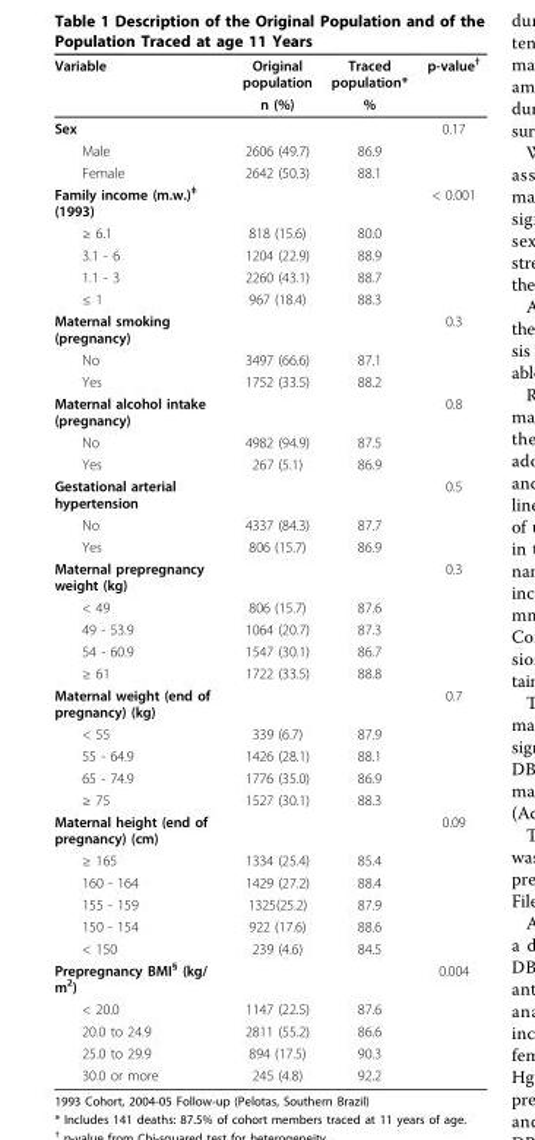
<table><thead><tr><td rowspan="2">Variable</td><td rowspan="2">Original population n (%)</td><td rowspan="2">Traced population* %</td><td rowspan="2">p-value<sup>†</sup></td></tr><tr></tr></thead><tbody><tr><td>Sex</td><td></td><td></td><td>0.17</td></tr><tr><td>Male</td><td>2606 (49.7)</td><td>86.9</td><td></td></tr><tr><td>Female</td><td>2642 (50.3)</td><td>88.1</td><td></td></tr><tr><td>Family income (m.w.)<sup>‡</sup> (1993)</td><td></td><td></td><td>&lt; 0.001</td></tr><tr><td>≥ 6.1</td><td>818 (15.6)</td><td>80.0</td><td></td></tr><tr><td>3.1 - 6</td><td>1204 (22.9)</td><td>88.9</td><td></td></tr><tr><td>1.1 - 3</td><td>2260 (43.1)</td><td>88.7</td><td></td></tr><tr><td>≤ 1</td><td>967 (18.4)</td><td>88.3</td><td></td></tr><tr><td>Maternal smoking (pregnancy)</td><td></td><td></td><td>0.3</td></tr><tr><td>No</td><td>3497 (66.6)</td><td>87.1</td><td></td></tr><tr><td>Yes</td><td>1752 (33.5)</td><td>88.2</td><td></td></tr><tr><td>Maternal alcohol intake (pregnancy)</td><td></td><td></td><td>0.8</td></tr><tr><td>No</td><td>4982 (94.9)</td><td>87.5</td><td></td></tr><tr><td>Yes</td><td>267 (5.1)</td><td>86.9</td><td></td></tr><tr><td>Gestational arterial hypertension</td><td></td><td></td><td>0.5</td></tr><tr><td>No</td><td>4337 (84.3)</td><td>87.7</td><td></td></tr><tr><td>Yes</td><td>806 (15.7)</td><td>86.9</td><td></td></tr><tr><td>Maternal prepregnancy weight (kg)</td><td></td><td></td><td>0.3</td></tr><tr><td>&lt; 49</td><td>806 (15.7)</td><td>87.6</td><td></td></tr><tr><td>49 - 53.9</td><td>1064 (20.7)</td><td>87.3</td><td></td></tr><tr><td>54 - 60.9</td><td>1547 (30.1)</td><td>86.7</td><td></td></tr><tr><td>≥ 61</td><td>1722 (33.5)</td><td>88.8</td><td></td></tr><tr><td>Maternal weight (end of pregnancy) (kg)</td><td></td><td></td><td>0.7</td></tr><tr><td>&lt; 55</td><td>339 (6.7)</td><td>87.9</td><td></td></tr><tr><td>55 - 64.9</td><td>1426 (28.1)</td><td>88.1</td><td></td></tr><tr><td>65 - 74.9</td><td>1776 (35.0)</td><td>86.9</td><td></td></tr><tr><td>≥ 75</td><td>1527 (30.1)</td><td>88.3</td><td></td></tr><tr><td>Maternal height (end of pregnancy) (cm)</td><td></td><td></td><td>0.09</td></tr><tr><td>≥ 165</td><td>1334 (25.4)</td><td>85.4</td><td></td></tr><tr><td>160 - 164</td><td>1429 (27.2)</td><td>88.4</td><td></td></tr><tr><td>155 - 159</td><td>1325(25.2)</td><td>87.9</td><td></td></tr><tr><td>150 - 154</td><td>922 (17.6)</td><td>88.6</td><td></td></tr><tr><td>&lt; 150</td><td>239 (4.6)</td><td>84.5</td><td></td></tr><tr><td>Prepregnancy BMI<sup>§</sup> (kg/ m<sup>2</sup>)</td><td></td><td></td><td>0.004</td></tr><tr><td>&lt; 20.0</td><td>1147 (22.5)</td><td>87.6</td><td></td></tr><tr><td>20.0 to 24.9</td><td>2811 (55.2)</td><td>86.6</td><td></td></tr><tr><td>25.0 to 29.9</td><td>894 (17.5)</td><td>90.3</td><td></td></tr><tr><td>30.0 or more</td><td>245 (4.8)</td><td>92.2</td><td></td></tr></tbody></table>